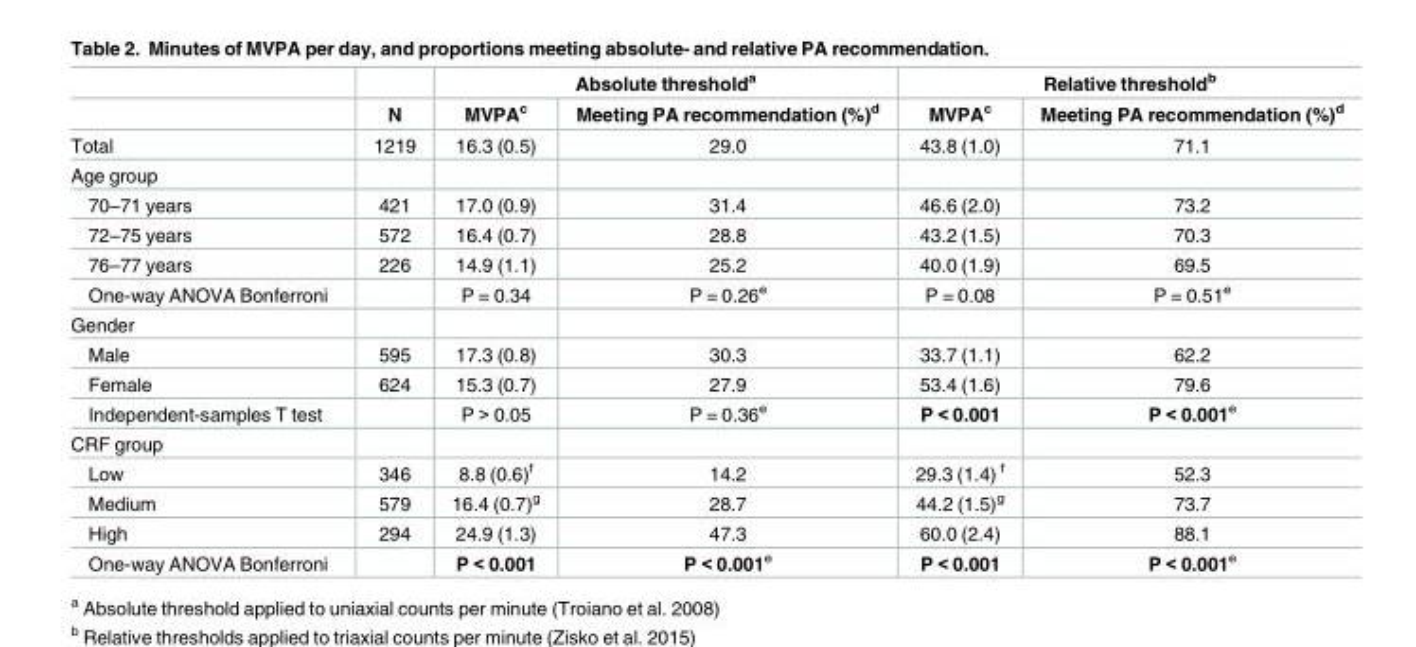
<table><thead><tr><td rowspan="2"></td><td rowspan="2">N</td><td colspan="2">Absolute threshold<sup>a</sup></td><td colspan="2">Relative threshold<sup>b</sup></td></tr><tr><td>MVPA<sup>c</sup></td><td>Meeting PA recommendation (%)<sup>d</sup></td><td>MVPA<sup>c</sup></td><td>Meeting PA recommendation (%)<sup>d</sup></td></tr></thead><tbody><tr><td>Total</td><td>1219</td><td>16.3 (0.5)</td><td>29.0</td><td>43.8 (1.0)</td><td>71.1</td></tr><tr><td colspan="6">Age group</td></tr><tr><td>70–71 years</td><td>421</td><td>17.0 (0.9)</td><td>31.4</td><td>46.6 (2.0)</td><td>73.2</td></tr><tr><td>72–75 years</td><td>572</td><td>16.4 (0.7)</td><td>28.8</td><td>43.2 (1.5)</td><td>70.3</td></tr><tr><td>76–77 years</td><td>226</td><td>14.9 (1.1)</td><td>25.2</td><td>40.0 (1.9)</td><td>69.5</td></tr><tr><td>One-way ANOVA Bonferroni</td><td></td><td>P = 0.34</td><td>P = 0.26<sup>e</sup></td><td>P = 0.08</td><td>P = 0.51<sup>e</sup></td></tr><tr><td colspan="6">Gender</td></tr><tr><td>Male</td><td>595</td><td>17.3 (0.8)</td><td>30.3</td><td>33.7 (1.1)</td><td>62.2</td></tr><tr><td>Female</td><td>624</td><td>15.3 (0.7)</td><td>27.9</td><td>53.4 (1.6)</td><td>79.6</td></tr><tr><td>Independent-samples T test</td><td></td><td>P &gt; 0.05</td><td>P = 0.36<sup>e</sup></td><td>P &lt; 0.001</td><td>P &lt; 0.001<sup>e</sup></td></tr><tr><td colspan="6">CRF group</td></tr><tr><td>Low</td><td>346</td><td>8.8 (0.6)<sup>f</sup></td><td>14.2</td><td>29.3 (1.4) <sup>f</sup></td><td>52.3</td></tr><tr><td>Medium</td><td>579</td><td>16.4 (0.7)<sup>g</sup></td><td>28.7</td><td>44.2 (1.5)<sup>g</sup></td><td>73.7</td></tr><tr><td>High</td><td>294</td><td>24.9 (1.3)</td><td>47.3</td><td>60.0 (2.4)</td><td>88.1</td></tr><tr><td>One-way ANOVA Bonferroni</td><td></td><td>P &lt; 0.001</td><td>P &lt; 0.001<sup>e</sup></td><td>P &lt; 0.001</td><td>P &lt; 0.001<sup>e</sup></td></tr></tbody></table>